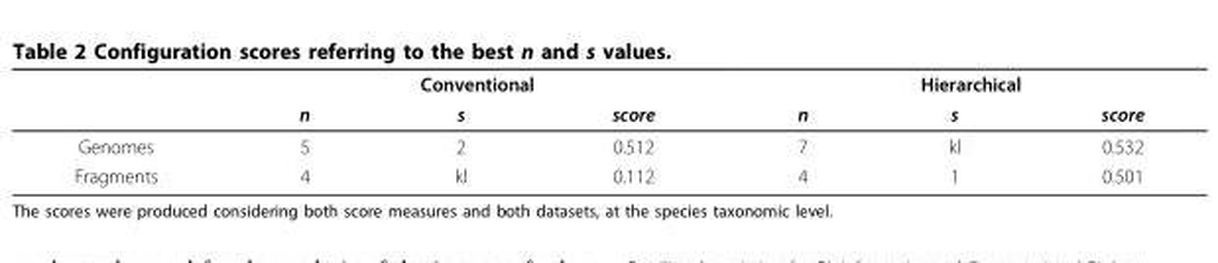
<table><thead><tr><td rowspan="2"></td><td colspan="3">Conventional</td><td colspan="3">Hierarchical</td></tr><tr><td>n</td><td>s</td><td>score</td><td>n</td><td>s</td><td>score</td></tr></thead><tbody><tr><td>Genomes</td><td>5</td><td>2</td><td>0.512</td><td>7</td><td>kl</td><td>0.532</td></tr><tr><td>Fragments</td><td>4</td><td>kl</td><td>0.112</td><td>4</td><td>1</td><td>0.501</td></tr></tbody></table>